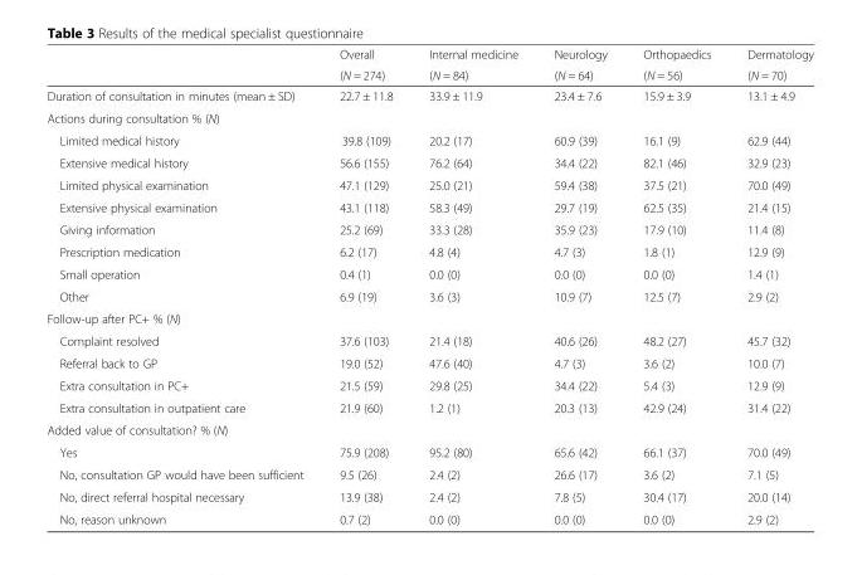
<table><thead><tr><td rowspan="2"></td><td rowspan="2">Overall (N = 274)</td><td rowspan="2">Internal medicine (N = 84)</td><td rowspan="2">Neurology (N = 64)</td><td rowspan="2">Orthopaedics (N = 56)</td><td rowspan="2">Dermatology (N = 70)</td></tr><tr></tr></thead><tbody><tr><td>Duration of consultation in minutes (mean ± SD)</td><td>22.7 ± 11.8</td><td>33.9 ± 11.9</td><td>23.4 ± 7.6</td><td>15.9 ± 3.9</td><td>13.1 ± 4.9</td></tr><tr><td colspan="6">Actions during consultation % (N)</td></tr><tr><td>Limited medical history</td><td>39.8 (109)</td><td>20.2 (17)</td><td>60.9 (39)</td><td>16.1 (9)</td><td>62.9 (44)</td></tr><tr><td>Extensive medical history</td><td>56.6 (155)</td><td>76.2 (64)</td><td>34.4 (22)</td><td>82.1 (46)</td><td>32.9 (23)</td></tr><tr><td>Limited physical examination</td><td>47.1 (129)</td><td>25.0 (21)</td><td>59.4 (38)</td><td>37.5 (21)</td><td>70.0 (49)</td></tr><tr><td>Extensive physical examination</td><td>43.1 (118)</td><td>58.3 (49)</td><td>29.7 (19)</td><td>62.5 (35)</td><td>21.4 (15)</td></tr><tr><td>Giving information</td><td>25.2 (69)</td><td>33.3 (28)</td><td>35.9 (23)</td><td>17.9 (10)</td><td>11.4 (8)</td></tr><tr><td>Prescription medication</td><td>6.2 (17)</td><td>4.8 (4)</td><td>4.7 (3)</td><td>1.8 (1)</td><td>12.9 (9)</td></tr><tr><td>Small operation</td><td>0.4 (1)</td><td>0.0 (0)</td><td>0.0 (0)</td><td>0.0 (0)</td><td>1.4 (1)</td></tr><tr><td>Other</td><td>6.9 (19)</td><td>3.6 (3)</td><td>10.9 (7)</td><td>12.5 (7)</td><td>2.9 (2)</td></tr><tr><td colspan="6">Follow-up after PC+ % (N)</td></tr><tr><td>Complaint resolved</td><td>37.6 (103)</td><td>21.4 (18)</td><td>40.6 (26)</td><td>48.2 (27)</td><td>45.7 (32)</td></tr><tr><td>Referral back to GP</td><td>19.0 (52)</td><td>47.6 (40)</td><td>4.7 (3)</td><td>3.6 (2)</td><td>10.0 (7)</td></tr><tr><td>Extra consultation in PC+</td><td>21.5 (59)</td><td>29.8 (25)</td><td>34.4 (22)</td><td>5.4 (3)</td><td>12.9 (9)</td></tr><tr><td>Extra consultation in outpatient care</td><td>21.9 (60)</td><td>1.2 (1)</td><td>20.3 (13)</td><td>42.9 (24)</td><td>31.4 (22)</td></tr><tr><td colspan="6">Added value of consultation? % (N)</td></tr><tr><td>Yes</td><td>75.9 (208)</td><td>95.2 (80)</td><td>65.6 (42)</td><td>66.1 (37)</td><td>70.0 (49)</td></tr><tr><td>No, consultation GP would have been sufficient</td><td>9.5 (26)</td><td>2.4 (2)</td><td>26.6 (17)</td><td>3.6 (2)</td><td>7.1 (5)</td></tr><tr><td>No, direct referral hospital necessary</td><td>13.9 (38)</td><td>2.4 (2)</td><td>7.8 (5)</td><td>30.4 (17)</td><td>20.0 (14)</td></tr><tr><td>No, reason unknown</td><td>0.7 (2)</td><td>0.0 (0)</td><td>0.0 (0)</td><td>0.0 (0)</td><td>2.9 (2)</td></tr></tbody></table>